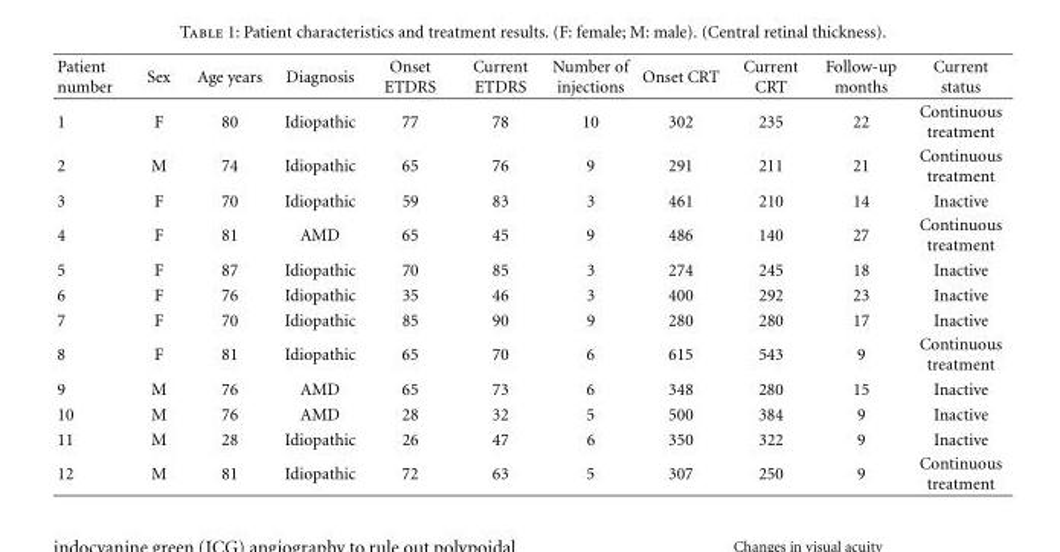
<table><thead><tr><td>Patient number</td><td>Sex</td><td>Age years</td><td>Diagnosis</td><td>Onset ETDRS</td><td>Current ETDRS</td><td>Number of injections</td><td>Onset CRT</td><td>Current CRT</td><td>Follow-up months</td><td>Current status</td></tr></thead><tbody><tr><td>1</td><td>F</td><td>80</td><td>Idiopathic</td><td>77</td><td>78</td><td>10</td><td>302</td><td>235</td><td>22</td><td>Continuous treatment</td></tr><tr><td>2</td><td>M</td><td>74</td><td>Idiopathic</td><td>65</td><td>76</td><td>9</td><td>291</td><td>211</td><td>21</td><td>Continuous treatment</td></tr><tr><td>3</td><td>F</td><td>70</td><td>Idiopathic</td><td>59</td><td>83</td><td>3</td><td>461</td><td>210</td><td>14</td><td>Inactive</td></tr><tr><td>4</td><td>F</td><td>81</td><td>AMD</td><td>65</td><td>45</td><td>9</td><td>486</td><td>140</td><td>27</td><td>Continuous treatment</td></tr><tr><td>5</td><td>F</td><td>87</td><td>Idiopathic</td><td>70</td><td>85</td><td>3</td><td>274</td><td>245</td><td>18</td><td>Inactive</td></tr><tr><td>6</td><td>F</td><td>76</td><td>Idiopathic</td><td>35</td><td>46</td><td>3</td><td>400</td><td>292</td><td>23</td><td>Inactive</td></tr><tr><td>7</td><td>F</td><td>70</td><td>Idiopathic</td><td>85</td><td>90</td><td>9</td><td>280</td><td>280</td><td>17</td><td>Inactive</td></tr><tr><td>8</td><td>F</td><td>81</td><td>Idiopathic</td><td>65</td><td>70</td><td>6</td><td>615</td><td>543</td><td>9</td><td>Continuous treatment</td></tr><tr><td>9</td><td>M</td><td>76</td><td>AMD</td><td>65</td><td>73</td><td>6</td><td>348</td><td>280</td><td>15</td><td>Inactive</td></tr><tr><td>10</td><td>M</td><td>76</td><td>AMD</td><td>28</td><td>32</td><td>5</td><td>500</td><td>384</td><td>9</td><td>Inactive</td></tr><tr><td>11</td><td>M</td><td>28</td><td>Idiopathic</td><td>26</td><td>47</td><td>6</td><td>350</td><td>322</td><td>9</td><td>Inactive</td></tr><tr><td>12</td><td>M</td><td>81</td><td>Idiopathic</td><td>72</td><td>63</td><td>5</td><td>307</td><td>250</td><td>9</td><td>Continuous treatment</td></tr></tbody></table>